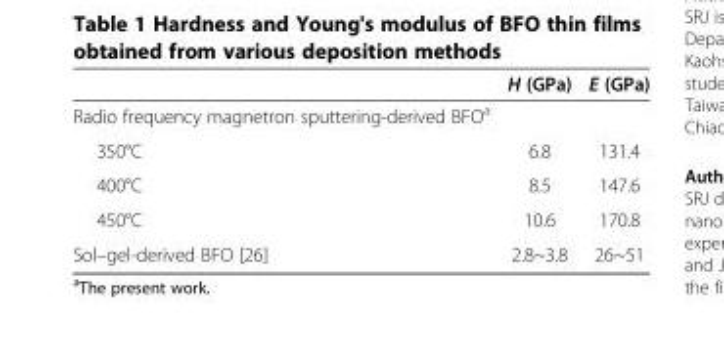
<table><thead><tr><td></td><td>H (GPa)</td><td>E (GPa)</td></tr></thead><tbody><tr><td colspan="3">Radio frequency magnetron sputtering-derived BFO<sup>a</sup></td></tr><tr><td>350°C</td><td>6.8</td><td>131.4</td></tr><tr><td>400°C</td><td>8.5</td><td>147.6</td></tr><tr><td>450°C</td><td>10.6</td><td>170.8</td></tr><tr><td>Sol–gel-derived BFO [26]</td><td>2.8~3.8</td><td>26~51</td></tr></tbody></table>